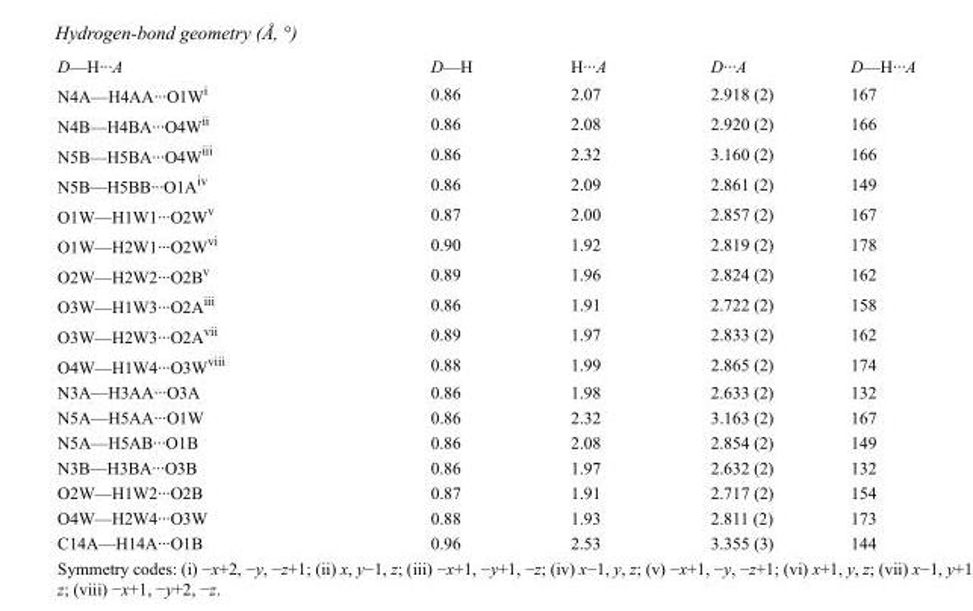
<table><tbody><tr><td>D—H···A</td><td>D—H</td><td>H···A</td><td>D···A</td><td>D—H···A</td></tr><tr><td>N4A—H4AA···O1W<sup>i</sup></td><td>0.86</td><td>2.07</td><td>2.918 (2)</td><td>167</td></tr><tr><td>N4B—H4BA···O4W<sup>ii</sup></td><td>0.86</td><td>2.08</td><td>2.920 (2)</td><td>166</td></tr><tr><td>N5B—H5BA···O4W<sup>iii</sup></td><td>0.86</td><td>2.32</td><td>3.160 (2)</td><td>166</td></tr><tr><td>N5B—H5BB···O1A<sup>iv</sup></td><td>0.86</td><td>2.09</td><td>2.861 (2)</td><td>149</td></tr><tr><td>O1W—H1W1···O2W<sup>v</sup></td><td>0.87</td><td>2.00</td><td>2.857 (2)</td><td>167</td></tr><tr><td>O1W—H2W1···O2W<sup>vi</sup></td><td>0.90</td><td>1.92</td><td>2.819 (2)</td><td>178</td></tr><tr><td>O2W—H2W2···O2B<sup>v</sup></td><td>0.89</td><td>1.96</td><td>2.824 (2)</td><td>162</td></tr><tr><td>O3W—H1W3···O2A<sup>iii</sup></td><td>0.86</td><td>1.91</td><td>2.722 (2)</td><td>158</td></tr><tr><td>O3W—H2W3···O2A<sup>vii</sup></td><td>0.89</td><td>1.97</td><td>2.833 (2)</td><td>162</td></tr><tr><td>O4W—H1W4···O3W<sup>viii</sup></td><td>0.88</td><td>1.99</td><td>2.865 (2)</td><td>174</td></tr><tr><td>N3A—H3AA···O3A</td><td>0.86</td><td>1.98</td><td>2.633 (2)</td><td>132</td></tr><tr><td>N5A—H5AA···O1W</td><td>0.86</td><td>2.32</td><td>3.163 (2)</td><td>167</td></tr><tr><td>N5A—H5AB···O1B</td><td>0.86</td><td>2.08</td><td>2.854 (2)</td><td>149</td></tr><tr><td>N3B—H3BA···O3B</td><td>0.86</td><td>1.97</td><td>2.632 (2)</td><td>132</td></tr><tr><td>O2W—H1W2···O2B</td><td>0.87</td><td>1.91</td><td>2.717 (2)</td><td>154</td></tr><tr><td>O4W—H2W4···O3W</td><td>0.88</td><td>1.93</td><td>2.811 (2)</td><td>173</td></tr><tr><td>C14A—H14A···O1B</td><td>0.96</td><td>2.53</td><td>3.355 (3)</td><td>144</td></tr></tbody></table>